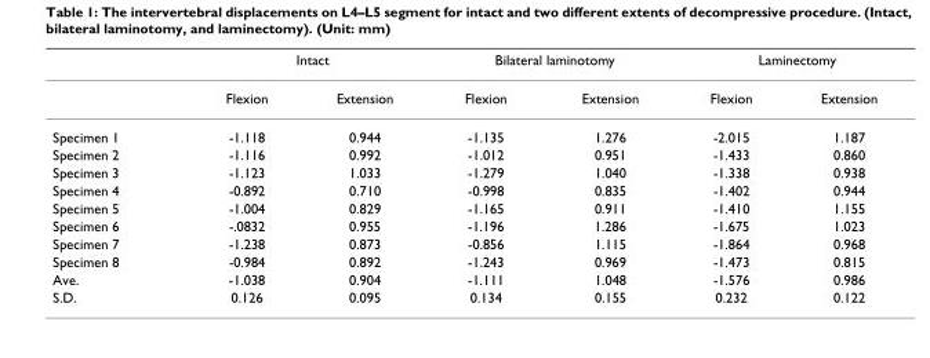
<table><thead><tr><td rowspan="2"></td><td colspan="2">Intact</td><td colspan="2">Bilateral laminotomy</td><td colspan="2">Laminectomy</td></tr><tr><td>Flexion</td><td>Extension</td><td>Flexion</td><td>Extension</td><td>Flexion</td><td>Extension</td></tr></thead><tbody><tr><td>Specimen 1</td><td>-1.118</td><td>0.944</td><td>-1.135</td><td>1.276</td><td>-2.015</td><td>1.187</td></tr><tr><td>Specimen 2</td><td>-1.116</td><td>0.992</td><td>-1.012</td><td>0.951</td><td>-1.433</td><td>0.860</td></tr><tr><td>Specimen 3</td><td>-1.123</td><td>1.033</td><td>-1.279</td><td>1.040</td><td>-1.338</td><td>0.938</td></tr><tr><td>Specimen 4</td><td>-0.892</td><td>0.710</td><td>-0.998</td><td>0.835</td><td>-1.402</td><td>0.944</td></tr><tr><td>Specimen 5</td><td>-1.004</td><td>0.829</td><td>-1.165</td><td>0.911</td><td>-1.410</td><td>1.155</td></tr><tr><td>Specimen 6</td><td>-.0832</td><td>0.955</td><td>-1.196</td><td>1.286</td><td>-1.675</td><td>1.023</td></tr><tr><td>Specimen 7</td><td>-1.238</td><td>0.873</td><td>-0.856</td><td>1.115</td><td>-1.864</td><td>0.968</td></tr><tr><td>Specimen 8</td><td>-0.984</td><td>0.892</td><td>-1.243</td><td>0.969</td><td>-1.473</td><td>0.815</td></tr><tr><td>Ave.</td><td>-1.038</td><td>0.904</td><td>-1.111</td><td>1.048</td><td>-1.576</td><td>0.986</td></tr><tr><td>S.D.</td><td>0.126</td><td>0.095</td><td>0.134</td><td>0.155</td><td>0.232</td><td>0.122</td></tr></tbody></table>